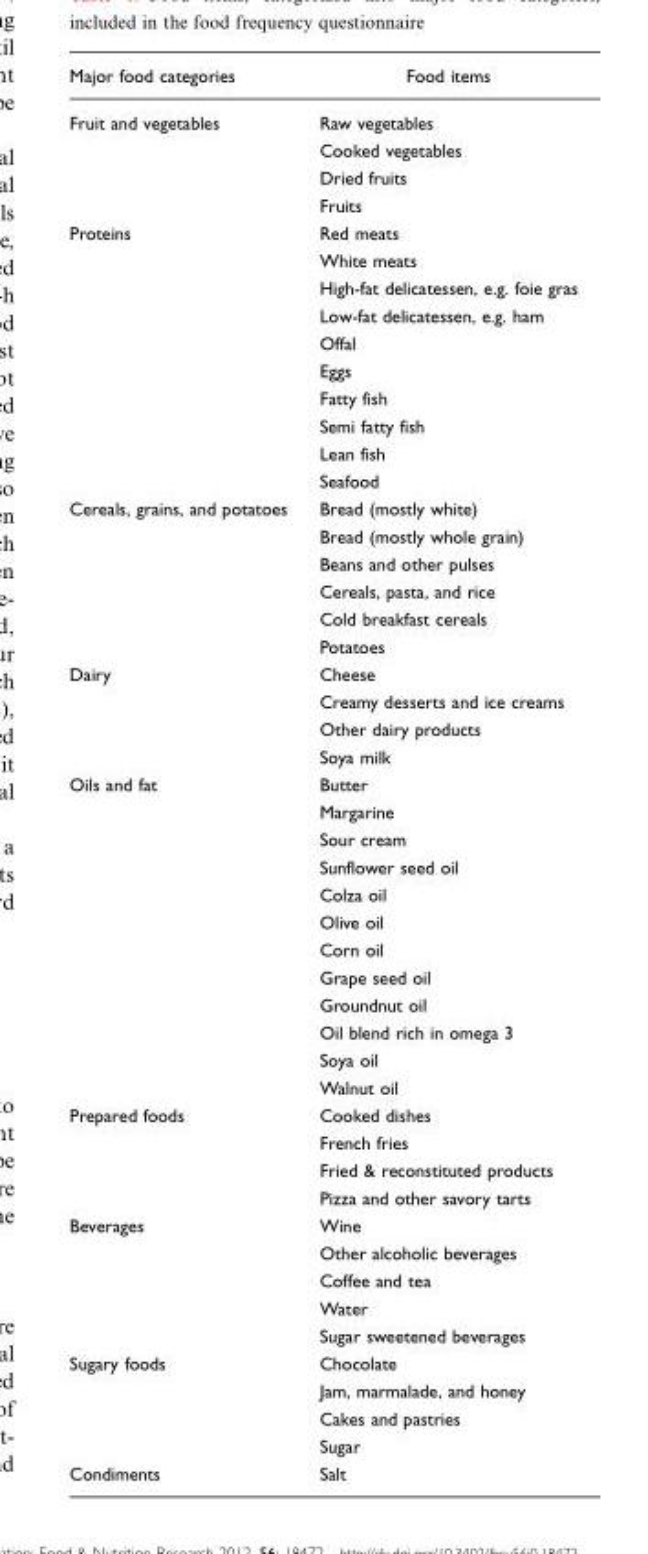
<table><thead><tr><td>Major food categories</td><td>Food items</td></tr></thead><tbody><tr><td rowspan="4">Fruit and vegetables</td><td>Raw vegetables</td></tr><tr><td>Cooked vegetables</td></tr><tr><td>Dried fruits</td></tr><tr><td>Fruits</td></tr><tr><td rowspan="10">Proteins</td><td>Red meats</td></tr><tr><td>White meats</td></tr><tr><td>High-fat delicatessen, e.g. foie gras</td></tr><tr><td>Low-fat delicatessen, e.g. ham</td></tr><tr><td>Offal</td></tr><tr><td>Eggs</td></tr><tr><td>Fatty fish</td></tr><tr><td>Semi fatty fish</td></tr><tr><td>Lean fish</td></tr><tr><td>Seafood</td></tr><tr><td rowspan="6">Cereals, grains, and potatoes</td><td>Bread (mostly white)</td></tr><tr><td>Bread (mostly whole grain)</td></tr><tr><td>Beans and other pulses</td></tr><tr><td>Cereals, pasta, and rice</td></tr><tr><td>Cold breakfast cereals</td></tr><tr><td>Potatoes</td></tr><tr><td rowspan="4">Dairy</td><td>Cheese</td></tr><tr><td>Creamy desserts and ice creams</td></tr><tr><td>Other dairy products</td></tr><tr><td>Soya milk</td></tr><tr><td rowspan="12">Oils and fat</td><td>Butter</td></tr><tr><td>Margarine</td></tr><tr><td>Sour cream</td></tr><tr><td>Sunflower seed oil</td></tr><tr><td>Colza oil</td></tr><tr><td>Olive oil</td></tr><tr><td>Corn oil</td></tr><tr><td>Grape seed oil</td></tr><tr><td>Groundnut oil</td></tr><tr><td>Oil blend rich in omega 3</td></tr><tr><td>Soya oil</td></tr><tr><td>Walnut oil</td></tr><tr><td rowspan="4">Prepared foods</td><td>Cooked dishes</td></tr><tr><td>French fries</td></tr><tr><td>Fried &amp; reconstituted products</td></tr><tr><td>Pizza and other savory tarts</td></tr><tr><td rowspan="5">Beverages</td><td>Wine</td></tr><tr><td>Other alcoholic beverages</td></tr><tr><td>Coffee and tea</td></tr><tr><td>Water</td></tr><tr><td>Sugar sweetened beverages</td></tr><tr><td rowspan="4">Sugary foods</td><td>Chocolate</td></tr><tr><td>Jam, marmalade, and honey</td></tr><tr><td>Cakes and pastries</td></tr><tr><td>Sugar</td></tr><tr><td>Condiments</td><td>Salt</td></tr></tbody></table>